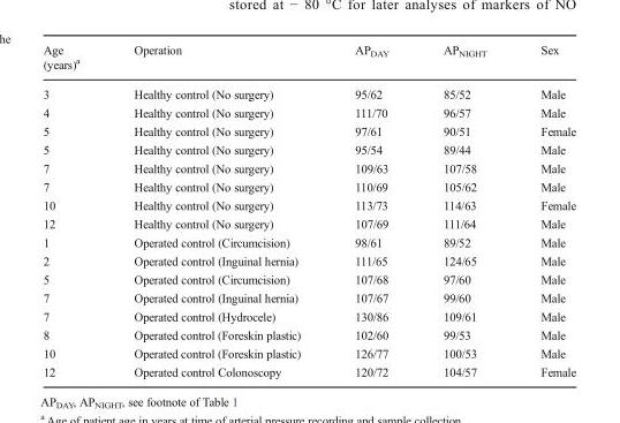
<table><thead><tr><td>Age (years)<sup>a</sup></td><td>Operation</td><td>AP<sub>DAY</sub></td><td>AP<sub>NIGHT</sub></td><td>Sex</td></tr></thead><tbody><tr><td>3</td><td>Healthy control (No surgery)</td><td>95/62</td><td>85/52</td><td>Male</td></tr><tr><td>4</td><td>Healthy control (No surgery)</td><td>111/70</td><td>96/57</td><td>Male</td></tr><tr><td>5</td><td>Healthy control (No surgery)</td><td>97/61</td><td>90/51</td><td>Female</td></tr><tr><td>5</td><td>Healthy control (No surgery)</td><td>95/54</td><td>89/44</td><td>Male</td></tr><tr><td>7</td><td>Healthy control (No surgery)</td><td>109/63</td><td>107/58</td><td>Male</td></tr><tr><td>7</td><td>Healthy control (No surgery)</td><td>110/69</td><td>105/62</td><td>Male</td></tr><tr><td>10</td><td>Healthy control (No surgery)</td><td>113/73</td><td>114/63</td><td>Female</td></tr><tr><td>12</td><td>Healthy control (No surgery)</td><td>107/69</td><td>111/64</td><td>Male</td></tr><tr><td>1</td><td>Operated control (Circumcision)</td><td>98/61</td><td>89/52</td><td>Male</td></tr><tr><td>2</td><td>Operated control (Inguinal hernia)</td><td>111/65</td><td>124/65</td><td>Male</td></tr><tr><td>5</td><td>Operated control (Circumcision)</td><td>107/68</td><td>97/60</td><td>Male</td></tr><tr><td>7</td><td>Operated control (Inguinal hernia)</td><td>107/67</td><td>99/60</td><td>Male</td></tr><tr><td>7</td><td>Operated control (Hydrocele)</td><td>130/86</td><td>109/61</td><td>Male</td></tr><tr><td>8</td><td>Operated control (Foreskin plastic)</td><td>102/60</td><td>99/53</td><td>Male</td></tr><tr><td>10</td><td>Operated control (Foreskin plastic)</td><td>126/77</td><td>100/53</td><td>Male</td></tr><tr><td>12</td><td>Operated control Colonoscopy</td><td>120/72</td><td>104/57</td><td>Female</td></tr></tbody></table>